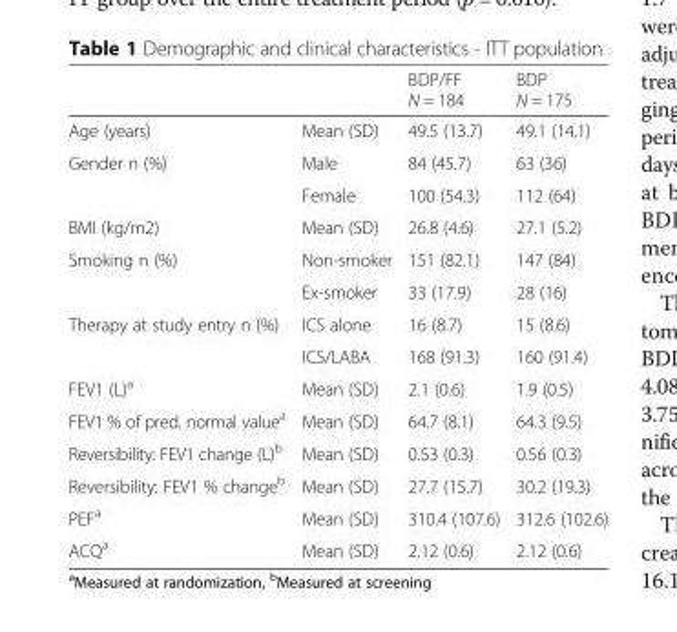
<table><thead><tr><td></td><td></td><td>BDP/FF N = 184</td><td>BDP N = 175</td></tr></thead><tbody><tr><td>Age (years)</td><td>Mean (SD)</td><td>49.5 (13.7)</td><td>49.1 (14.1)</td></tr><tr><td rowspan="2">Gender n (%)</td><td>Male</td><td>84 (45.7)</td><td>63 (36)</td></tr><tr><td>Female</td><td>100 (54.3)</td><td>112 (64)</td></tr><tr><td>BMI (kg/m2)</td><td>Mean (SD)</td><td>26.8 (4.6)</td><td>27.1 (5.2)</td></tr><tr><td rowspan="2">Smoking n (%)</td><td>Non-smoker</td><td>151 (82.1)</td><td>147 (84)</td></tr><tr><td>Ex-smoker</td><td>33 (17.9)</td><td>28 (16)</td></tr><tr><td rowspan="2">Therapy at study entry n (%)</td><td>ICS alone</td><td>16 (8.7)</td><td>15 (8.6)</td></tr><tr><td>ICS/LABA</td><td>168 (91.3)</td><td>160 (91.4)</td></tr><tr><td>FEV1 (L)<sup>a</sup></td><td>Mean (SD)</td><td>2.1 (0.6)</td><td>1.9 (0.5)</td></tr><tr><td>FEV1 % of pred. normal value<sup>a</sup></td><td>Mean (SD)</td><td>64.7 (8.1)</td><td>64.3 (9.5)</td></tr><tr><td>Reversibility: FEV1 change (L)<sup>b</sup></td><td>Mean (SD)</td><td>0.53 (0.3)</td><td>0.56 (0.3)</td></tr><tr><td>Reversibility: FEV1 % change<sup>b</sup></td><td>Mean (SD)</td><td>27.7 (15.7)</td><td>30.2 (19.3)</td></tr><tr><td>PEF<sup>a</sup></td><td>Mean (SD)</td><td>310.4 (107.6)</td><td>312.6 (102.6)</td></tr><tr><td>ACQ<sup>a</sup></td><td>Mean (SD)</td><td>2.12 (0.6)</td><td>2.12 (0.6)</td></tr></tbody></table>